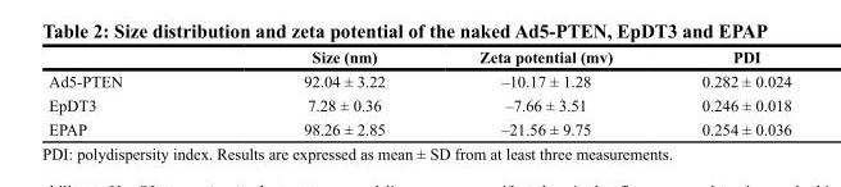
<table><thead><tr><td></td><td>Size (nm)</td><td>Zeta potential (mv)</td><td>PDI</td></tr></thead><tbody><tr><td>Ad5-PTEN</td><td>92.04 ± 3.22</td><td>–10.17 ± 1.28</td><td>0.282 ± 0.024</td></tr><tr><td>EpDT3</td><td>7.28 ± 0.36</td><td>–7.66 ± 3.51</td><td>0.246 ± 0.018</td></tr><tr><td>EPAP</td><td>98.26 ± 2.85</td><td>–21.56 ± 9.75</td><td>0.254 ± 0.036</td></tr></tbody></table>